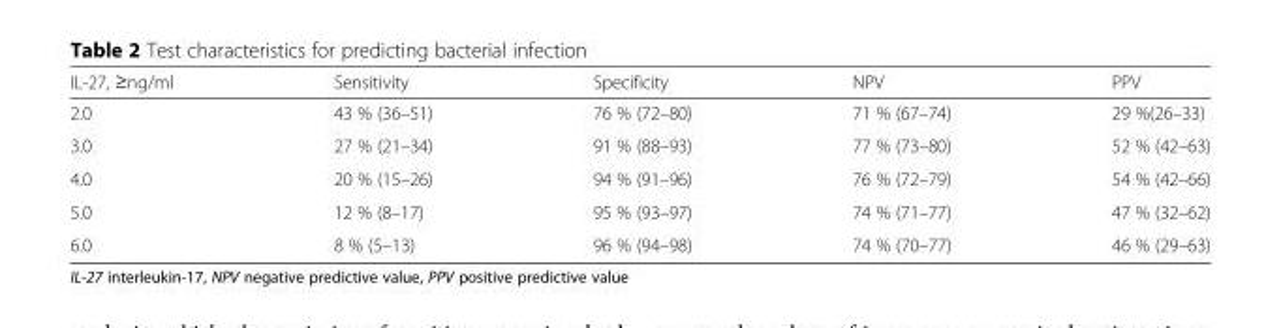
<table><thead><tr><td>IL-27, ≥ng/ml</td><td>Sensitivity</td><td>Specificity</td><td>NPV</td><td>PPV</td></tr></thead><tbody><tr><td>2.0</td><td>43 % (36–51)</td><td>76 % (72–80)</td><td>71 % (67–74)</td><td>29 %(26–33)</td></tr><tr><td>3.0</td><td>27 % (21–34)</td><td>91 % (88–93)</td><td>77 % (73–80)</td><td>52 % (42–63)</td></tr><tr><td>4.0</td><td>20 % (15–26)</td><td>94 % (91–96)</td><td>76 % (72–79)</td><td>54 % (42–66)</td></tr><tr><td>5.0</td><td>12 % (8–17)</td><td>95 % (93–97)</td><td>74 % (71–77)</td><td>47 % (32–62)</td></tr><tr><td>6.0</td><td>8 % (5–13)</td><td>96 % (94–98)</td><td>74 % (70–77)</td><td>46 % (29–63)</td></tr></tbody></table>